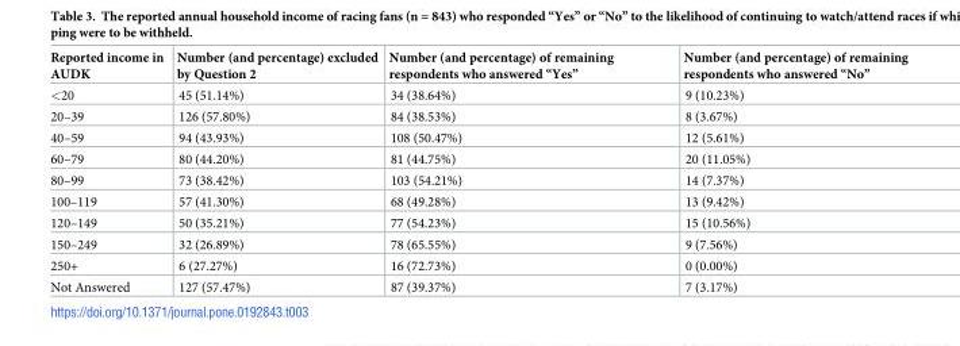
<table><thead><tr><td>Reported income in AUDK</td><td>Number (and percentage) excluded by Question 2</td><td>Number (and percentage) of remaining respondents who answered “Yes”</td><td>Number (and percentage) of remaining respondents who answered “No”</td></tr></thead><tbody><tr><td>&lt;20</td><td>45 (51.14%)</td><td>34 (38.64%)</td><td>9 (10.23%)</td></tr><tr><td>20–39</td><td>126 (57.80%)</td><td>84 (38.53%)</td><td>8 (3.67%)</td></tr><tr><td>40–59</td><td>94 (43.93%)</td><td>108 (50.47%)</td><td>12 (5.61%)</td></tr><tr><td>60–79</td><td>80 (44.20%)</td><td>81 (44.75%)</td><td>20 (11.05%)</td></tr><tr><td>80–99</td><td>73 (38.42%)</td><td>103 (54.21%)</td><td>14 (7.37%)</td></tr><tr><td>100–119</td><td>57 (41.30%)</td><td>68 (49.28%)</td><td>13 (9.42%)</td></tr><tr><td>120–149</td><td>50 (35.21%)</td><td>77 (54.23%)</td><td>15 (10.56%)</td></tr><tr><td>150–249</td><td>32 (26.89%)</td><td>78 (65.55%)</td><td>9 (7.56%)</td></tr><tr><td>250+</td><td>6 (27.27%)</td><td>16 (72.73%)</td><td>0 (0.00%)</td></tr><tr><td>Not Answered</td><td>127 (57.47%)</td><td>87 (39.37%)</td><td>7 (3.17%)</td></tr></tbody></table>